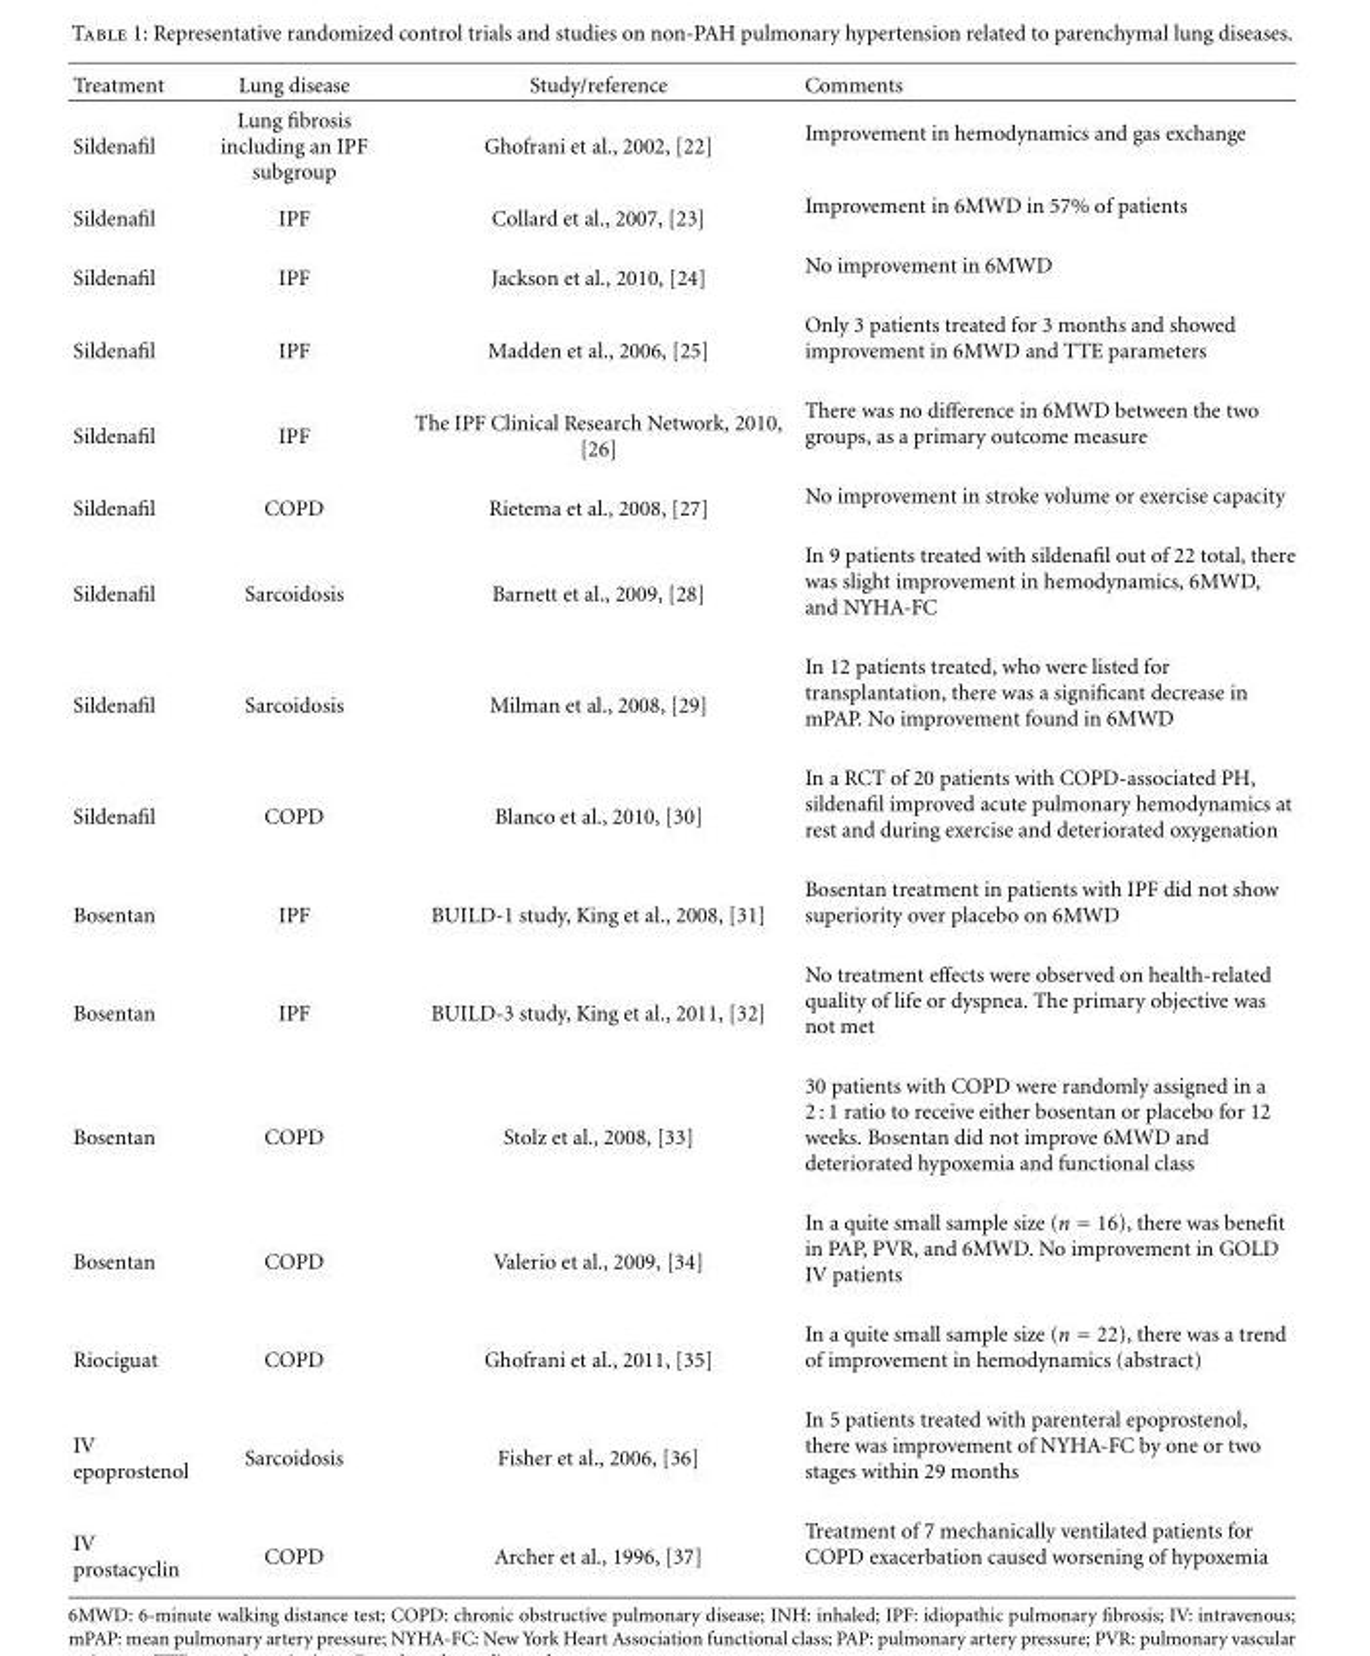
<table><thead><tr><td>Treatment</td><td>Lung disease</td><td>Study/reference</td><td>Comments</td></tr></thead><tbody><tr><td>Sildenafil</td><td>Lung fibrosis including an IPF subgroup</td><td>Ghofrani et al., 2002, [22]</td><td>Improvement in hemodynamics and gas exchange</td></tr><tr><td>Sildenafil</td><td>IPF</td><td>Collard et al., 2007, [23]</td><td>Improvement in 6MWD in 57% of patients</td></tr><tr><td>Sildenafil</td><td>IPF</td><td>Jackson et al., 2010, [24]</td><td>No improvement in 6MWD</td></tr><tr><td>Sildenafil</td><td>IPF</td><td>Madden et al., 2006, [25]</td><td>Only 3 patients treated for 3 months and showed improvement in 6MWD and TTE parameters</td></tr><tr><td>Sildenafil</td><td>IPF</td><td>The IPF Clinical Research Network, 2010, [26]</td><td>There was no difference in 6MWD between the two groups, as a primary outcome measure</td></tr><tr><td>Sildenafil</td><td>COPD</td><td>Rietema et al., 2008, [27]</td><td>No improvement in stroke volume or exercise capacity</td></tr><tr><td>Sildenafil</td><td>Sarcoidosis</td><td>Barnett et al., 2009, [28]</td><td>In 9 patients treated with sildenafil out of 22 total, there was slight improvement in hemodynamics, 6MWD, and NYHA-FC</td></tr><tr><td>Sildenafil</td><td>Sarcoidosis</td><td>Milman et al., 2008, [29]</td><td>In 12 patients treated, who were listed for transplantation, there was a significant decrease in mPAP. No improvement found in 6MWD</td></tr><tr><td>Sildenafil</td><td>COPD</td><td>Blanco et al., 2010, [30]</td><td>In a RCT of 20 patients with COPD-associated PH, sildenafil improved acute pulmonary hemodynamics at rest and during exercise and deteriorated oxygenation</td></tr><tr><td>Bosentan</td><td>IPF</td><td>BUILD-1 study, King et al., 2008, [31]</td><td>Bosentan treatment in patients with IPF did not show superiority over placebo on 6MWD</td></tr><tr><td>Bosentan</td><td>IPF</td><td>BUILD-3 study, King et al., 2011, [32]</td><td>No treatment effects were observed on health-related quality of life or dyspnea. The primary objective was not met</td></tr><tr><td>Bosentan</td><td>COPD</td><td>Stolz et al., 2008, [33]</td><td>30 patients with COPD were randomly assigned in a 2 : 1 ratio to receive either bosentan or placebo for 12 weeks. Bosentan did not improve 6MWD and deteriorated hypoxemia and functional class</td></tr><tr><td>Bosentan</td><td>COPD</td><td>Valerio et al., 2009, [34]</td><td>In a quite small sample size (n = 16), there was benefit in PAP, PVR, and 6MWD. No improvement in GOLD IV patients</td></tr><tr><td>Riociguat</td><td>COPD</td><td>Ghofrani et al., 2011, [35]</td><td>In a quite small sample size (n = 22), there was a trend of improvement in hemodynamics (abstract)</td></tr><tr><td>IV epoprostenol</td><td>Sarcoidosis</td><td>Fisher et al., 2006, [36]</td><td>In 5 patients treated with parenteral epoprostenol, there was improvement of NYHA-FC by one or two stages within 29 months</td></tr><tr><td>IV prostacyclin</td><td>COPD</td><td>Archer et al., 1996, [37]</td><td>Treatment of 7 mechanically ventilated patients for COPD exacerbation caused worsening of hypoxemia</td></tr></tbody></table>